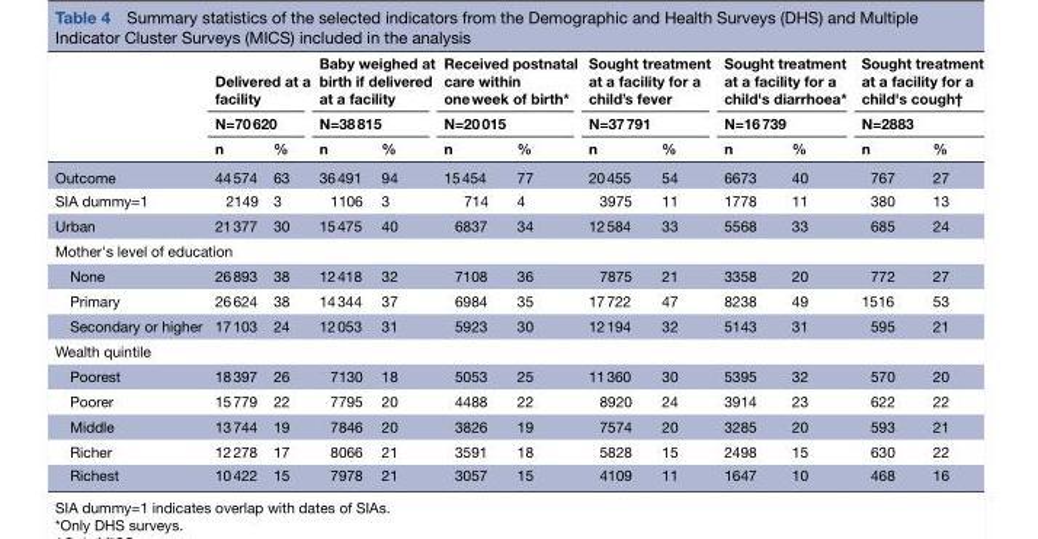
<table><thead><tr><td rowspan="3"></td><td rowspan="2" colspan="2">Delivered at a facility N=70 620</td><td rowspan="2" colspan="2">Baby weighed at birth if delivered at a facility N=38 815</td><td rowspan="2" colspan="2">Received postnatal care within one week of birth* N=20 015</td><td rowspan="2" colspan="2">Sought treatment at a facility for a child’s fever N=37 791</td><td rowspan="2" colspan="2">Sought treatment at a facility for a child&#x27;s diarrhoea* N=16 739</td><td rowspan="2" colspan="2">Sought treatment at a facility for a child&#x27;s cough† N=2883</td></tr><tr></tr><tr><td>n</td><td>%</td><td>n</td><td>%</td><td>n</td><td>%</td><td>n</td><td>%</td><td>n</td><td>%</td><td>n</td><td>%</td></tr></thead><tbody><tr><td>Outcome</td><td>44 574</td><td>63</td><td>36 491</td><td>94</td><td>15 454</td><td>77</td><td>20 455</td><td>54</td><td>6673</td><td>40</td><td>767</td><td>27</td></tr><tr><td>SIA dummy=1</td><td>2149</td><td>3</td><td>1106</td><td>3</td><td>714</td><td>4</td><td>3975</td><td>11</td><td>1778</td><td>11</td><td>380</td><td>13</td></tr><tr><td>Urban</td><td>21 377</td><td>30</td><td>15 475</td><td>40</td><td>6837</td><td>34</td><td>12 584</td><td>33</td><td>5568</td><td>33</td><td>685</td><td>24</td></tr><tr><td colspan="13">Mother&#x27;s level of education</td></tr><tr><td>None</td><td>26 893</td><td>38</td><td>12 418</td><td>32</td><td>7108</td><td>36</td><td>7875</td><td>21</td><td>3358</td><td>20</td><td>772</td><td>27</td></tr><tr><td>Primary</td><td>26 624</td><td>38</td><td>14 344</td><td>37</td><td>6984</td><td>35</td><td>17 722</td><td>47</td><td>8238</td><td>49</td><td>1516</td><td>53</td></tr><tr><td>Secondary or higher</td><td>17 103</td><td>24</td><td>12 053</td><td>31</td><td>5923</td><td>30</td><td>12 194</td><td>32</td><td>5143</td><td>31</td><td>595</td><td>21</td></tr><tr><td colspan="13">Wealth quintile</td></tr><tr><td>Poorest</td><td>18 397</td><td>26</td><td>7130</td><td>18</td><td>5053</td><td>25</td><td>11 360</td><td>30</td><td>5395</td><td>32</td><td>570</td><td>20</td></tr><tr><td>Poorer</td><td>15 779</td><td>22</td><td>7795</td><td>20</td><td>4488</td><td>22</td><td>8920</td><td>24</td><td>3914</td><td>23</td><td>622</td><td>22</td></tr><tr><td>Middle</td><td>13 744</td><td>19</td><td>7846</td><td>20</td><td>3826</td><td>19</td><td>7574</td><td>20</td><td>3285</td><td>20</td><td>593</td><td>21</td></tr><tr><td>Richer</td><td>12 278</td><td>17</td><td>8066</td><td>21</td><td>3591</td><td>18</td><td>5828</td><td>15</td><td>2498</td><td>15</td><td>630</td><td>22</td></tr><tr><td>Richest</td><td>10 422</td><td>15</td><td>7978</td><td>21</td><td>3057</td><td>15</td><td>4109</td><td>11</td><td>1647</td><td>10</td><td>468</td><td>16</td></tr></tbody></table>